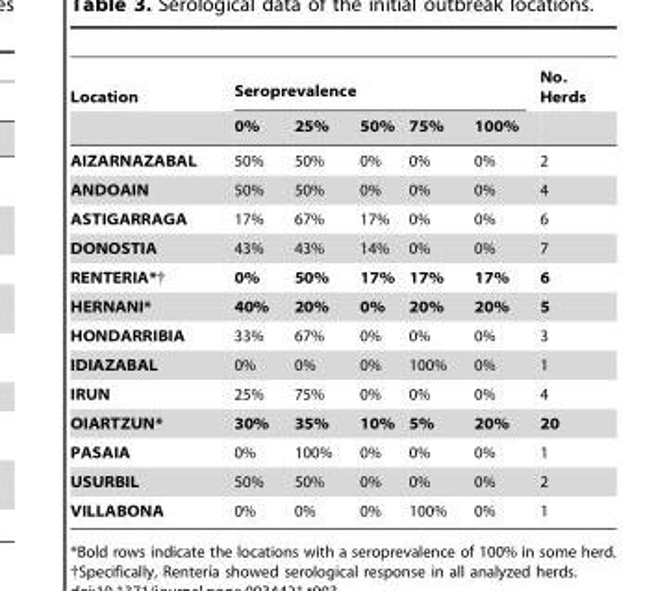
<table><thead><tr><td rowspan="2">Location</td><td colspan="5">Seroprevalence</td><td rowspan="2">No. Herds</td></tr><tr><td>0%</td><td>25%</td><td>50%</td><td>75%</td><td>100%</td></tr></thead><tbody><tr><td>AIZARNAZABAL</td><td>50%</td><td>50%</td><td>0%</td><td>0%</td><td>0%</td><td>2</td></tr><tr><td>ANDOAIN</td><td>50%</td><td>50%</td><td>0%</td><td>0%</td><td>0%</td><td>4</td></tr><tr><td>ASTIGARRAGA</td><td>17%</td><td>67%</td><td>17%</td><td>0%</td><td>0%</td><td>6</td></tr><tr><td>DONOSTIA</td><td>43%</td><td>43%</td><td>14%</td><td>0%</td><td>0%</td><td>7</td></tr><tr><td>RENTERIA*†</td><td>0%</td><td>50%</td><td>17%</td><td>17%</td><td>17%</td><td>6</td></tr><tr><td>HERNANI*</td><td>40%</td><td>20%</td><td>0%</td><td>20%</td><td>20%</td><td>5</td></tr><tr><td>HONDARRIBIA</td><td>33%</td><td>67%</td><td>0%</td><td>0%</td><td>0%</td><td>3</td></tr><tr><td>IDIAZABAL</td><td>0%</td><td>0%</td><td>0%</td><td>100%</td><td>0%</td><td>1</td></tr><tr><td>IRUN</td><td>25%</td><td>75%</td><td>0%</td><td>0%</td><td>0%</td><td>4</td></tr><tr><td>OIARTZUN*</td><td>30%</td><td>35%</td><td>10%</td><td>5%</td><td>20%</td><td>20</td></tr><tr><td>PASAIA</td><td>0%</td><td>100%</td><td>0%</td><td>0%</td><td>0%</td><td>1</td></tr><tr><td>USURBIL</td><td>50%</td><td>50%</td><td>0%</td><td>0%</td><td>0%</td><td>2</td></tr><tr><td>VILLABONA</td><td>0%</td><td>0%</td><td>0%</td><td>100%</td><td>0%</td><td>1</td></tr></tbody></table>